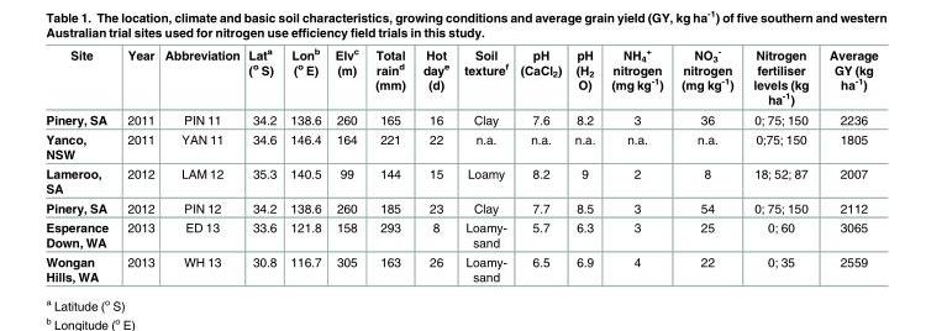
<table><thead><tr><td>Site</td><td>Year</td><td>Abbreviation</td><td>Lat<sup>a</sup> (<sup>o</sup> S)</td><td>Lon<sup>b</sup> (<sup>o</sup> E)</td><td>Elv<sup>c</sup> (m)</td><td>Total rain<sup>d</sup> (mm)</td><td>Hot day<sup>e</sup> (d)</td><td>Soil texture<sup>f</sup></td><td>pH (CaCl<sub>2</sub>)</td><td>pH (H<sub>2</sub> O)</td><td>NH<sub>4</sub> <sup>+</sup> nitrogen (mg kg<sup>-1</sup>)</td><td>NO<sub>3</sub> <sup>-</sup> nitrogen (mg kg<sup>-1</sup>)</td><td>Nitrogen fertiliser levels (kg ha<sup>-1</sup>)</td><td>Average GY (kg ha<sup>-1</sup>)</td></tr></thead><tbody><tr><td>Pinery, SA</td><td>2011</td><td>PIN 11</td><td>34.2</td><td>138.6</td><td>260</td><td>165</td><td>16</td><td>Clay</td><td>7.6</td><td>8.2</td><td>3</td><td>36</td><td>0; 75; 150</td><td>2236</td></tr><tr><td>Yanco, NSW</td><td>2011</td><td>YAN 11</td><td>34.6</td><td>146.4</td><td>164</td><td>221</td><td>22</td><td>n.a.</td><td>n.a.</td><td>n.a.</td><td>n.a.</td><td>n.a.</td><td>0;75; 150</td><td>1805</td></tr><tr><td>Lameroo, SA</td><td>2012</td><td>LAM 12</td><td>35.3</td><td>140.5</td><td>99</td><td>144</td><td>15</td><td>Loamy</td><td>8.2</td><td>9</td><td>2</td><td>8</td><td>18; 52; 87</td><td>2007</td></tr><tr><td>Pinery, SA</td><td>2012</td><td>PIN 12</td><td>34.2</td><td>138.6</td><td>260</td><td>185</td><td>23</td><td>Clay</td><td>7.7</td><td>8.5</td><td>3</td><td>54</td><td>0; 75; 150</td><td>2112</td></tr><tr><td>Esperance Down, WA</td><td>2013</td><td>ED 13</td><td>33.6</td><td>121.8</td><td>158</td><td>293</td><td>8</td><td>Loamy- sand</td><td>5.7</td><td>6.3</td><td>3</td><td>25</td><td>0; 60</td><td>3065</td></tr><tr><td>Wongan Hills, WA</td><td>2013</td><td>WH 13</td><td>30.8</td><td>116.7</td><td>305</td><td>163</td><td>26</td><td>Loamy- sand</td><td>6.5</td><td>6.9</td><td>4</td><td>22</td><td>0; 35</td><td>2559</td></tr></tbody></table>